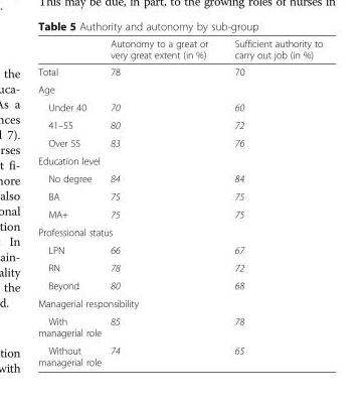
<table><thead><tr><td></td><td>Autonomy to a great or very great extent (in %)</td><td>Sufficient authority to carry out job (in %)</td></tr></thead><tbody><tr><td>Total</td><td>78</td><td>70</td></tr><tr><td colspan="3">Age</td></tr><tr><td>Under 40</td><td>70</td><td>60</td></tr><tr><td>41–55</td><td>80</td><td>72</td></tr><tr><td>Over 55</td><td>83</td><td>76</td></tr><tr><td colspan="3">Education level</td></tr><tr><td>No degree</td><td>84</td><td>84</td></tr><tr><td>BA</td><td>75</td><td>75</td></tr><tr><td>MA+</td><td>75</td><td>75</td></tr><tr><td colspan="3">Professional status</td></tr><tr><td>LPN</td><td>66</td><td>67</td></tr><tr><td>RN</td><td>78</td><td>72</td></tr><tr><td>Beyond</td><td>80</td><td>68</td></tr><tr><td colspan="3">Managerial responsibility</td></tr><tr><td>With managerial role</td><td>85</td><td>78</td></tr><tr><td>Without managerial role</td><td>74</td><td>65</td></tr></tbody></table>